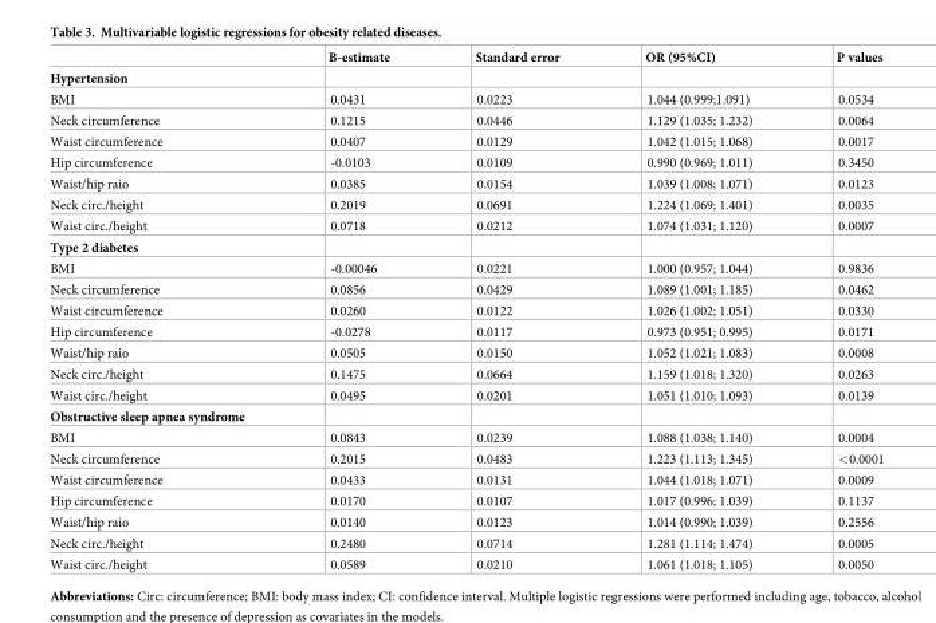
<table><thead><tr><td></td><td>B-estimate</td><td>Standard error</td><td>OR (95%CI)</td><td>P values</td></tr></thead><tbody><tr><td colspan="5">Hypertension</td></tr><tr><td>BMI</td><td>0.0431</td><td>0.0223</td><td>1.044 (0.999;1.091)</td><td>0.0534</td></tr><tr><td>Neck circumference</td><td>0.1215</td><td>0.0446</td><td>1.129 (1.035; 1.232)</td><td>0.0064</td></tr><tr><td>Waist circumference</td><td>0.0407</td><td>0.0129</td><td>1.042 (1.015; 1.068)</td><td>0.0017</td></tr><tr><td>Hip circumference</td><td>-0.0103</td><td>0.0109</td><td>0.990 (0.969; 1.011)</td><td>0.3450</td></tr><tr><td>Waist/hip raio</td><td>0.0385</td><td>0.0154</td><td>1.039 (1.008; 1.071)</td><td>0.0123</td></tr><tr><td>Neck circ./height</td><td>0.2019</td><td>0.0691</td><td>1.224 (1.069; 1.401)</td><td>0.0035</td></tr><tr><td>Waist circ./height</td><td>0.0718</td><td>0.0212</td><td>1.074 (1.031; 1.120)</td><td>0.0007</td></tr><tr><td colspan="5">Type 2 diabetes</td></tr><tr><td>BMI</td><td>-0.00046</td><td>0.0221</td><td>1.000 (0.957; 1.044)</td><td>0.9836</td></tr><tr><td>Neck circumference</td><td>0.0856</td><td>0.0429</td><td>1.089 (1.001; 1.185)</td><td>0.0462</td></tr><tr><td>Waist circumference</td><td>0.0260</td><td>0.0122</td><td>1.026 (1.002; 1.051)</td><td>0.0330</td></tr><tr><td>Hip circumference</td><td>-0.0278</td><td>0.0117</td><td>0.973 (0.951; 0.995)</td><td>0.0171</td></tr><tr><td>Waist/hip raio</td><td>0.0505</td><td>0.0150</td><td>1.052 (1.021; 1.083)</td><td>0.0008</td></tr><tr><td>Neck circ./height</td><td>0.1475</td><td>0.0664</td><td>1.159 (1.018; 1.320)</td><td>0.0263</td></tr><tr><td>Waist circ./height</td><td>0.0495</td><td>0.0201</td><td>1.051 (1.010; 1.093)</td><td>0.0139</td></tr><tr><td colspan="5">Obstructive sleep apnea syndrome</td></tr><tr><td>BMI</td><td>0.0843</td><td>0.0239</td><td>1.088 (1.038; 1.140)</td><td>0.0004</td></tr><tr><td>Neck circumference</td><td>0.2015</td><td>0.0483</td><td>1.223 (1.113; 1.345)</td><td>&lt;0.0001</td></tr><tr><td>Waist circumference</td><td>0.0433</td><td>0.0131</td><td>1.044 (1.018; 1.071)</td><td>0.0009</td></tr><tr><td>Hip circumference</td><td>0.0170</td><td>0.0107</td><td>1.017 (0.996; 1.039)</td><td>0.1137</td></tr><tr><td>Waist/hip raio</td><td>0.0140</td><td>0.0123</td><td>1.014 (0.990; 1.039)</td><td>0.2556</td></tr><tr><td>Neck circ./height</td><td>0.2480</td><td>0.0714</td><td>1.281 (1.114; 1.474)</td><td>0.0005</td></tr><tr><td>Waist circ./height</td><td>0.0589</td><td>0.0210</td><td>1.061 (1.018; 1.105)</td><td>0.0050</td></tr></tbody></table>